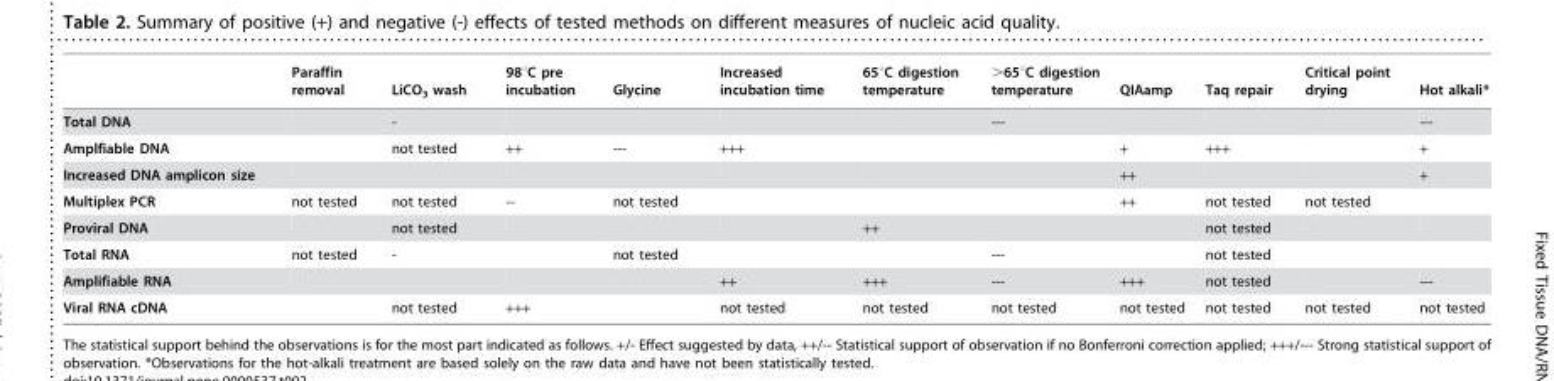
<table><thead><tr><td></td><td>Paraffin removal</td><td>LiCO<sub>3</sub> wash</td><td>98°C pre incubation</td><td>Glycine</td><td>Increased incubation time</td><td>65°C digestion temperature</td><td>&gt;65°C digestion temperature</td><td>QIAamp</td><td>Taq repair</td><td>Critical point drying</td><td>Hot alkali*</td></tr></thead><tbody><tr><td>Total DNA</td><td></td><td>-</td><td></td><td></td><td></td><td></td><td>---</td><td></td><td></td><td></td><td>---</td></tr><tr><td>Amplfiable DNA</td><td></td><td>not tested</td><td>++</td><td>---</td><td>+++</td><td></td><td></td><td>+</td><td>+++</td><td></td><td>+</td></tr><tr><td>Increased DNA amplicon size</td><td></td><td></td><td></td><td></td><td></td><td></td><td></td><td>++</td><td></td><td></td><td>+</td></tr><tr><td>Multiplex PCR</td><td>not tested</td><td>not tested</td><td>--</td><td>not tested</td><td></td><td></td><td></td><td>++</td><td>not tested</td><td>not tested</td><td></td></tr><tr><td>Proviral DNA</td><td></td><td>not tested</td><td></td><td></td><td></td><td>++</td><td></td><td></td><td>not tested</td><td></td><td></td></tr><tr><td>Total RNA</td><td>not tested</td><td>-</td><td></td><td>not tested</td><td></td><td></td><td>---</td><td></td><td>not tested</td><td></td><td></td></tr><tr><td>Amplifiable RNA</td><td></td><td></td><td></td><td></td><td>++</td><td>+++</td><td>---</td><td>+++</td><td>not tested</td><td></td><td>---</td></tr><tr><td>Viral RNA cDNA</td><td></td><td>not tested</td><td>+++</td><td></td><td>not tested</td><td>not tested</td><td>not tested</td><td>not tested</td><td>not tested</td><td>not tested</td><td>not tested</td></tr></tbody></table>